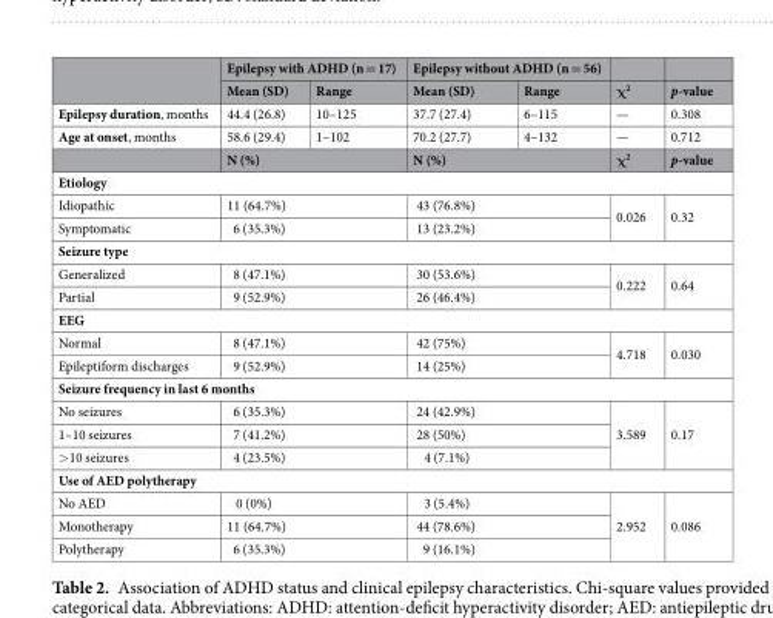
<table><thead><tr><td rowspan="2"></td><td colspan="2">Epilepsy with ADHD (n = 17)</td><td colspan="2">Epilepsy without ADHD (n = 56)</td><td rowspan="2">χ2</td><td rowspan="2">p-value</td></tr><tr><td>Mean (SD)</td><td>Range</td><td>Mean (SD)</td><td>Range</td></tr></thead><tbody><tr><td>Epilepsy duration, months</td><td>44.4 (26.8)</td><td>10–125</td><td>37.7 (27.4)</td><td>6–115</td><td>—</td><td>0.308</td></tr><tr><td rowspan="2">Age at onset, months</td><td>58.6 (29.4)</td><td>1–102</td><td>70.2 (27.7)</td><td>4–132</td><td>—</td><td>0.712</td></tr><tr><td colspan="2">N (%)</td><td colspan="2">N (%)</td><td>χ<sup>2</sup></td><td>p-value</td></tr><tr><td colspan="7">Etiology</td></tr><tr><td>Idiopathic</td><td colspan="2">11 (64.7%)</td><td colspan="2">43 (76.8%)</td><td rowspan="2">0.026</td><td rowspan="2">0.32</td></tr><tr><td>Symptomatic</td><td colspan="2">6 (35.3%)</td><td colspan="2">13 (23.2%)</td></tr><tr><td colspan="7">Seizure type</td></tr><tr><td>Generalized</td><td colspan="2">8 (47.1%)</td><td colspan="2">30 (53.6%)</td><td rowspan="2">0.222</td><td rowspan="2">0.64</td></tr><tr><td>Partial</td><td colspan="2">9 (52.9%)</td><td colspan="2">26 (46.4%)</td></tr><tr><td colspan="7">EEG</td></tr><tr><td>Normal</td><td colspan="2">8 (47.1%)</td><td colspan="2">42 (75%)</td><td rowspan="2">4.718</td><td rowspan="2">0.030</td></tr><tr><td>Epileptiform discharges</td><td colspan="2">9 (52.9%)</td><td colspan="2">14 (25%)</td></tr><tr><td colspan="7">Seizure frequency in last 6 months</td></tr><tr><td>No seizures</td><td colspan="2">6 (35.3%)</td><td colspan="2">24 (42.9%)</td><td rowspan="3">3.589</td><td rowspan="3">0.17</td></tr><tr><td>1–10 seizures</td><td colspan="2">7 (41.2%)</td><td colspan="2">28 (50%)</td></tr><tr><td>&gt;10 seizures</td><td colspan="2">4 (23.5%)</td><td colspan="2">4 (7.1%)</td></tr><tr><td colspan="7">Use of AED polytherapy</td></tr><tr><td>No AED</td><td colspan="2">0 (0%)</td><td colspan="2">3 (5.4%)</td><td rowspan="3">2.952</td><td rowspan="3">0.086</td></tr><tr><td>Monotherapy</td><td colspan="2">11 (64.7%)</td><td colspan="2">44 (78.6%)</td></tr><tr><td>Polytherapy</td><td colspan="2">6 (35.3%)</td><td colspan="2">9 (16.1%)</td></tr></tbody></table>